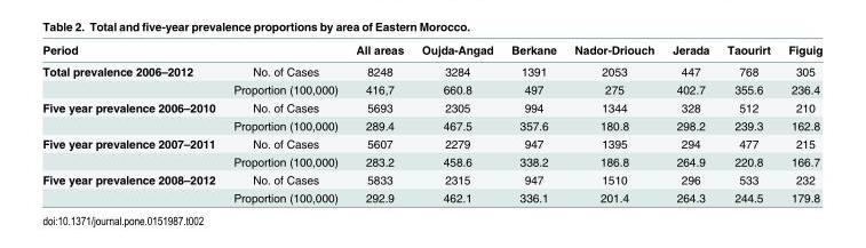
<table><thead><tr><td>Period</td><td></td><td>All areas</td><td>Oujda-Angad</td><td>Berkane</td><td>Nador-Driouch</td><td>Jerada</td><td>Taourirt</td><td>Figuig</td></tr></thead><tbody><tr><td rowspan="2">Total prevalence 2006–2012</td><td>No. of Cases</td><td>8248</td><td>3284</td><td>1391</td><td>2053</td><td>447</td><td>768</td><td>305</td></tr><tr><td>Proportion (100,000)</td><td>416,7</td><td>660.8</td><td>497</td><td>275</td><td>402.7</td><td>355.6</td><td>236.4</td></tr><tr><td rowspan="2">Five year prevalence 2006–2010</td><td>No. of Cases</td><td>5693</td><td>2305</td><td>994</td><td>1344</td><td>328</td><td>512</td><td>210</td></tr><tr><td>Proportion (100,000)</td><td>289.4</td><td>467.5</td><td>357.6</td><td>180.8</td><td>298.2</td><td>239.3</td><td>162.8</td></tr><tr><td rowspan="2">Five year prevalence 2007–2011</td><td>No. of Cases</td><td>5607</td><td>2279</td><td>947</td><td>1395</td><td>294</td><td>477</td><td>215</td></tr><tr><td>Proportion (100,000)</td><td>283.2</td><td>458.6</td><td>338.2</td><td>186.8</td><td>264.9</td><td>220.8</td><td>166.7</td></tr><tr><td rowspan="2">Five year prevalence 2008–2012</td><td>No. of Cases</td><td>5833</td><td>2315</td><td>947</td><td>1510</td><td>296</td><td>533</td><td>232</td></tr><tr><td>Proportion (100,000)</td><td>292.9</td><td>462.1</td><td>336.1</td><td>201.4</td><td>264.3</td><td>244.5</td><td>179.8</td></tr></tbody></table>